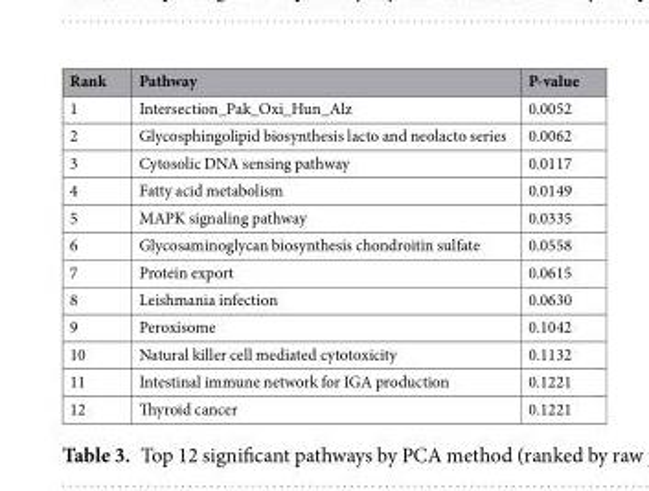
<table><thead><tr><td>Rank</td><td>Pathway</td><td>P-value</td></tr></thead><tbody><tr><td>1</td><td>Intersection_Pak_Oxi_Hun_Alz</td><td>0.0052</td></tr><tr><td>2</td><td>Glycosphingolipid biosynthesis lacto and neolacto series</td><td>0.0062</td></tr><tr><td>3</td><td>Cytosolic DNA sensing pathway</td><td>0.0117</td></tr><tr><td>4</td><td>Fatty acid metabolism</td><td>0.0149</td></tr><tr><td>5</td><td>MAPK signaling pathway</td><td>0.0335</td></tr><tr><td>6</td><td>Glycosaminoglycan biosynthesis chondroitin sulfate</td><td>0.0558</td></tr><tr><td>7</td><td>Protein export</td><td>0.0615</td></tr><tr><td>8</td><td>Leishmania infection</td><td>0.0630</td></tr><tr><td>9</td><td>Peroxisome</td><td>0.1042</td></tr><tr><td>10</td><td>Natural killer cell mediated cytotoxicity</td><td>0.1132</td></tr><tr><td>11</td><td>Intestinal immune network for IGA production</td><td>0.1221</td></tr><tr><td>12</td><td>Thyroid cancer</td><td>0.1221</td></tr></tbody></table>